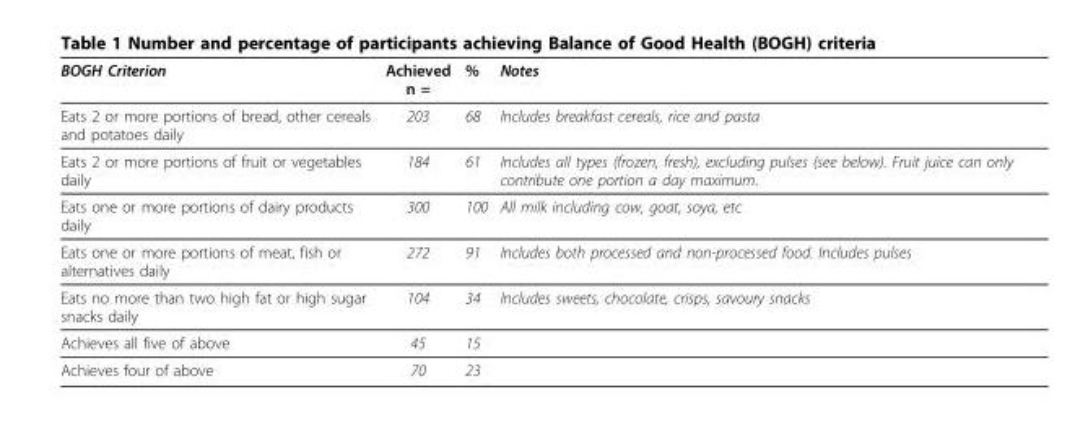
<table><thead><tr><td>BOGH Criterion</td><td>Achieved n =</td><td>%</td><td>Notes</td></tr></thead><tbody><tr><td>Eats 2 or more portions of bread, other cereals and potatoes daily</td><td>203</td><td>68</td><td>Includes breakfast cereals, rice and pasta</td></tr><tr><td>Eats 2 or more portions of fruit or vegetables daily</td><td>184</td><td>61</td><td>Includes all types (frozen, fresh), excluding pulses (see below). Fruit juice can only contribute one portion a day maximum.</td></tr><tr><td>Eats one or more portions of dairy products daily</td><td>300</td><td>100</td><td>All milk including cow, goat, soya, etc</td></tr><tr><td>Eats one or more portions of meat, fish or alternatives daily</td><td>272</td><td>91</td><td>Includes both processed and non-processed food. Includes pulses</td></tr><tr><td>Eats no more than two high fat or high sugar snacks daily</td><td>104</td><td>34</td><td>Includes sweets, chocolate, crisps, savoury snacks</td></tr><tr><td>Achieves all five of above</td><td>45</td><td>15</td><td></td></tr><tr><td>Achieves four of above</td><td>70</td><td>23</td><td></td></tr></tbody></table>